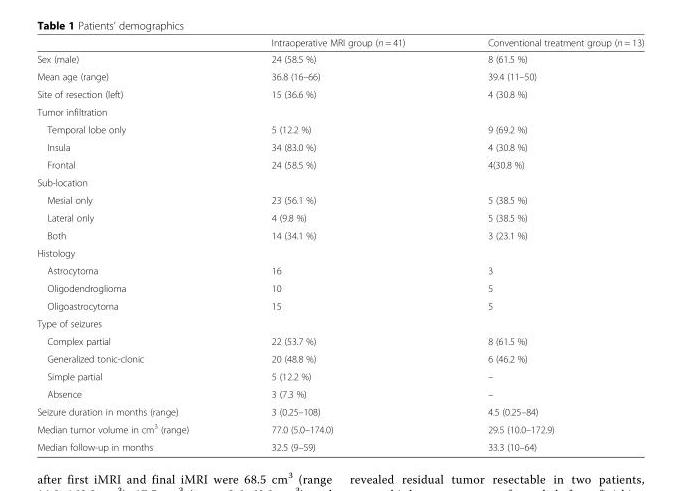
<table><thead><tr><td></td><td>Intraoperative MRI group (n = 41)</td><td>Conventional treatment group (n = 13)</td></tr></thead><tbody><tr><td>Sex (male)</td><td>24 (58.5 %)</td><td>8 (61.5 %)</td></tr><tr><td>Mean age (range)</td><td>36.8 (16–66)</td><td>39.4 (11–50)</td></tr><tr><td>Site of resection (left)</td><td>15 (36.6 %)</td><td>4 (30.8 %)</td></tr><tr><td colspan="3">Tumor infiltration</td></tr><tr><td>Temporal lobe only</td><td>5 (12.2 %)</td><td>9 (69.2 %)</td></tr><tr><td>Insula</td><td>34 (83.0 %)</td><td>4 (30.8 %)</td></tr><tr><td>Frontal</td><td>24 (58.5 %)</td><td>4(30.8 %)</td></tr><tr><td colspan="3">Sub-location</td></tr><tr><td>Mesial only</td><td>23 (56.1 %)</td><td>5 (38.5 %)</td></tr><tr><td>Lateral only</td><td>4 (9.8 %)</td><td>5 (38.5 %)</td></tr><tr><td>Both</td><td>14 (34.1 %)</td><td>3 (23.1 %)</td></tr><tr><td colspan="3">Histology</td></tr><tr><td>Astrocytoma</td><td>16</td><td>3</td></tr><tr><td>Oligodendroglioma</td><td>10</td><td>5</td></tr><tr><td>Oligoastrocytoma</td><td>15</td><td>5</td></tr><tr><td colspan="3">Type of seizures</td></tr><tr><td>Complex partial</td><td>22 (53.7 %)</td><td>8 (61.5 %)</td></tr><tr><td>Generalized tonic-clonic</td><td>20 (48.8 %)</td><td>6 (46.2 %)</td></tr><tr><td>Simple partial</td><td>5 (12.2 %)</td><td>–</td></tr><tr><td>Absence</td><td>3 (7.3 %)</td><td>–</td></tr><tr><td>Seizure duration in months (range)</td><td>3 (0.25–108)</td><td>4.5 (0.25–84)</td></tr><tr><td>Median tumor volume in cm<sup>3</sup> (range)</td><td>77.0 (5.0–174.0)</td><td>29.5 (10.0–172.9)</td></tr><tr><td>Median follow-up in months</td><td>32.5 (9–59)</td><td>33.3 (10–64)</td></tr></tbody></table>